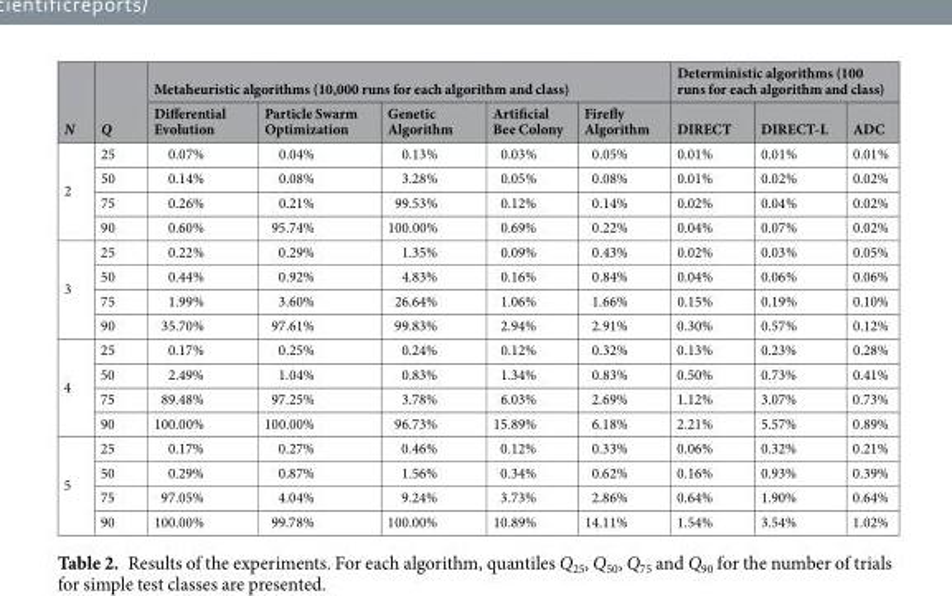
<table><thead><tr><td rowspan="2">N</td><td rowspan="2">Q</td><td colspan="5">Metaheuristic algorithms (10,000 runs for each algorithm and class)</td><td colspan="3">Deterministic algorithms (100 runs for each algorithm and class)</td></tr><tr><td>Differential Evolution</td><td>Particle Swarm Optimization</td><td>Genetic Algorithm</td><td>Artificial Bee Colony</td><td>Firefly Algorithm</td><td>DIRECT</td><td>DIRECT-L</td><td>ADC</td></tr></thead><tbody><tr><td rowspan="4">2</td><td>25</td><td>0.07%</td><td>0.04%</td><td>0.13%</td><td>0.03%</td><td>0.05%</td><td>0.01%</td><td>0.01%</td><td>0.01%</td></tr><tr><td>50</td><td>0.14%</td><td>0.08%</td><td>3.28%</td><td>0.05%</td><td>0.08%</td><td>0.01%</td><td>0.02%</td><td>0.02%</td></tr><tr><td>75</td><td>0.26%</td><td>0.21%</td><td>99.53%</td><td>0.12%</td><td>0.14%</td><td>0.02%</td><td>0.04%</td><td>0.02%</td></tr><tr><td>90</td><td>0.60%</td><td>95.74%</td><td>100.00%</td><td>0.69%</td><td>0.22%</td><td>0.04%</td><td>0.07%</td><td>0.02%</td></tr><tr><td rowspan="4">3</td><td>25</td><td>0.22%</td><td>0.29%</td><td>1.35%</td><td>0.09%</td><td>0.43%</td><td>0.02%</td><td>0.03%</td><td>0.05%</td></tr><tr><td>50</td><td>0.44%</td><td>0.92%</td><td>4.83%</td><td>0.16%</td><td>0.84%</td><td>0.04%</td><td>0.06%</td><td>0.06%</td></tr><tr><td>75</td><td>1.99%</td><td>3.60%</td><td>26.64%</td><td>1.06%</td><td>1.66%</td><td>0.15%</td><td>0.19%</td><td>0.10%</td></tr><tr><td>90</td><td>35.70%</td><td>97.61%</td><td>99.83%</td><td>2.94%</td><td>2.91%</td><td>0.30%</td><td>0.57%</td><td>0.12%</td></tr><tr><td rowspan="4">4</td><td>25</td><td>0.17%</td><td>0.25%</td><td>0.24%</td><td>0.12%</td><td>0.32%</td><td>0.13%</td><td>0.23%</td><td>0.28%</td></tr><tr><td>50</td><td>2.49%</td><td>1.04%</td><td>0.83%</td><td>1.34%</td><td>0.83%</td><td>0.50%</td><td>0.73%</td><td>0.41%</td></tr><tr><td>75</td><td>89.48%</td><td>97.25%</td><td>3.78%</td><td>6.03%</td><td>2.69%</td><td>1.12%</td><td>3.07%</td><td>0.73%</td></tr><tr><td>90</td><td>100.00%</td><td>100.00%</td><td>96.73%</td><td>15.89%</td><td>6.18%</td><td>2.21%</td><td>5.57%</td><td>0.89%</td></tr><tr><td rowspan="4">5</td><td>25</td><td>0.17%</td><td>0.27%</td><td>0.46%</td><td>0.12%</td><td>0.33%</td><td>0.06%</td><td>0.32%</td><td>0.21%</td></tr><tr><td>50</td><td>0.29%</td><td>0.87%</td><td>1.56%</td><td>0.34%</td><td>0.62%</td><td>0.16%</td><td>0.93%</td><td>0.39%</td></tr><tr><td>75</td><td>97.05%</td><td>4.04%</td><td>9.24%</td><td>3.73%</td><td>2.86%</td><td>0.64%</td><td>1.90%</td><td>0.64%</td></tr><tr><td>90</td><td>100.00%</td><td>99.78%</td><td>100.00%</td><td>10.89%</td><td>14.11%</td><td>1.54%</td><td>3.54%</td><td>1.02%</td></tr></tbody></table>